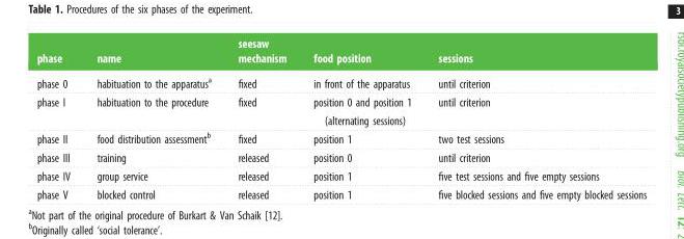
<table><thead><tr><td>phase</td><td>name</td><td>seesaw mechanism</td><td>food position</td><td>sessions</td></tr></thead><tbody><tr><td>phase 0</td><td>habituation to the apparatus<sup>a</sup></td><td>fixed</td><td>in front of the apparatus</td><td>until criterion</td></tr><tr><td>phase I</td><td>habituation to the procedure</td><td>fixed</td><td>position 0 and position 1 (alternating sessions)</td><td>until criterion</td></tr><tr><td>phase II</td><td>food distribution assessment<sup>b</sup></td><td>fixed</td><td>position 1</td><td>two test sessions</td></tr><tr><td>phase III</td><td>training</td><td>released</td><td>position 0</td><td>until criterion</td></tr><tr><td>phase IV</td><td>group service</td><td>released</td><td>position 1</td><td>five test sessions and five empty sessions</td></tr><tr><td>phase V</td><td>blocked control</td><td>released</td><td>position 1</td><td>five blocked sessions and five empty blocked sessions</td></tr></tbody></table>